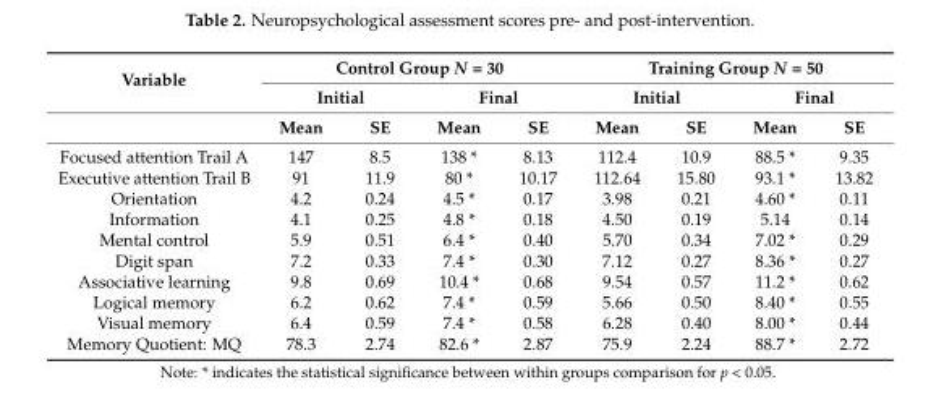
<table><thead><tr><td rowspan="3">Variable</td><td colspan="4">Control Group N = 30</td><td colspan="4">Training Group N = 50</td></tr><tr><td colspan="2">Initial</td><td colspan="2">Final</td><td colspan="2">Initial</td><td colspan="2">Final</td></tr><tr><td>Mean</td><td>SE</td><td>Mean</td><td>SE</td><td>Mean</td><td>SE</td><td>Mean</td><td>SE</td></tr></thead><tbody><tr><td>Focused attention Trail A</td><td>147</td><td>8.5</td><td>138 *</td><td>8.13</td><td>112.4</td><td>10.9</td><td>88.5 *</td><td>9.35</td></tr><tr><td>Executive attention Trail B</td><td>91</td><td>11.9</td><td>80 *</td><td>10.17</td><td>112.64</td><td>15.80</td><td>93.1 *</td><td>13.82</td></tr><tr><td>Orientation</td><td>4.2</td><td>0.24</td><td>4.5 *</td><td>0.17</td><td>3.98</td><td>0.21</td><td>4.60 *</td><td>0.11</td></tr><tr><td>Information</td><td>4.1</td><td>0.25</td><td>4.8 *</td><td>0.18</td><td>4.50</td><td>0.19</td><td>5.14</td><td>0.14</td></tr><tr><td>Mental control</td><td>5.9</td><td>0.51</td><td>6.4 *</td><td>0.40</td><td>5.70</td><td>0.34</td><td>7.02 *</td><td>0.29</td></tr><tr><td>Digit span</td><td>7.2</td><td>0.33</td><td>7.4 *</td><td>0.30</td><td>7.12</td><td>0.27</td><td>8.36 *</td><td>0.27</td></tr><tr><td>Associative learning</td><td>9.8</td><td>0.69</td><td>10.4 *</td><td>0.68</td><td>9.54</td><td>0.57</td><td>11.2 *</td><td>0.62</td></tr><tr><td>Logical memory</td><td>6.2</td><td>0.62</td><td>7.4 *</td><td>0.59</td><td>5.66</td><td>0.50</td><td>8.40 *</td><td>0.55</td></tr><tr><td>Visual memory</td><td>6.4</td><td>0.59</td><td>7.4 *</td><td>0.58</td><td>6.28</td><td>0.40</td><td>8.00 *</td><td>0.44</td></tr><tr><td>Memory Quotient: MQ</td><td>78.3</td><td>2.74</td><td>82.6 *</td><td>2.87</td><td>75.9</td><td>2.24</td><td>88.7 *</td><td>2.72</td></tr></tbody></table>